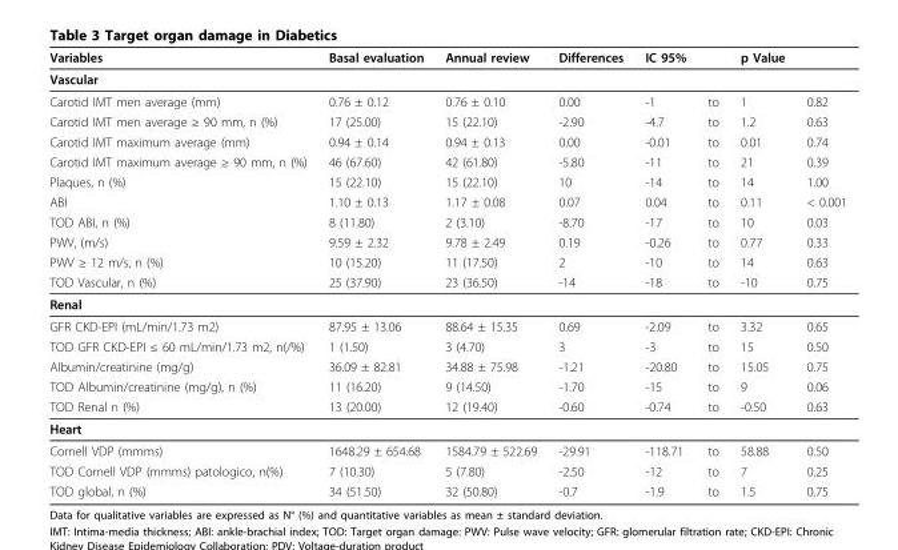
<table><thead><tr><td>Variables</td><td>Basal evaluation</td><td>Annual review</td><td>Differences</td><td>IC 95%</td><td></td><td>p Value</td><td></td></tr></thead><tbody><tr><td colspan="8">Vascular</td></tr><tr><td>Carotid IMT men average (mm)</td><td>0.76 ± 0.12</td><td>0.76 ± 0.10</td><td>0.00</td><td>-1</td><td>to</td><td>1</td><td>0.82</td></tr><tr><td>Carotid IMT men average ≥ 90 mm, n (%)</td><td>17 (25.00)</td><td>15 (22.10)</td><td>-2.90</td><td>-4.7</td><td>to</td><td>1.2</td><td>0.63</td></tr><tr><td>Carotid IMT maximum average (mm)</td><td>0.94 ± 0.14</td><td>0.94 ± 0.13</td><td>0.00</td><td>-0.01</td><td>to</td><td>0.01</td><td>0.74</td></tr><tr><td>Carotid IMT maximum average ≥ 90 mm, n (%)</td><td>46 (67.60)</td><td>42 (61.80)</td><td>-5.80</td><td>-11</td><td>to</td><td>21</td><td>0.39</td></tr><tr><td>Plaques, n (%)</td><td>15 (22.10)</td><td>15 (22.10)</td><td>10</td><td>-14</td><td>to</td><td>14</td><td>1.00</td></tr><tr><td>ABI</td><td>1.10 ± 0.13</td><td>1.17 ± 0.08</td><td>0.07</td><td>0.04</td><td>to</td><td>0.11</td><td>&lt; 0.001</td></tr><tr><td>TOD ABI, n (%)</td><td>8 (11.80)</td><td>2 (3.10)</td><td>-8.70</td><td>-17</td><td>to</td><td>10</td><td>0.03</td></tr><tr><td>PWV, (m/s)</td><td>9.59 ± 2.32</td><td>9.78 ± 2.49</td><td>0.19</td><td>-0.26</td><td>to</td><td>0.77</td><td>0.33</td></tr><tr><td>PWV ≥ 12 m/s, n (%)</td><td>10 (15.20)</td><td>11 (17.50)</td><td>2</td><td>-10</td><td>to</td><td>14</td><td>0.63</td></tr><tr><td>TOD Vascular, n (%)</td><td>25 (37.90)</td><td>23 (36.50)</td><td>-14</td><td>-18</td><td>to</td><td>-10</td><td>0.75</td></tr><tr><td colspan="8">Renal</td></tr><tr><td>GFR CKD-EPI (mL/min/1.73 m2)</td><td>87.95 ± 13.06</td><td>88.64 ± 15.35</td><td>0.69</td><td>-2.09</td><td>to</td><td>3.32</td><td>0.65</td></tr><tr><td>TOD GFR CKD-EPI ≤ 60 mL/min/1.73 m2, n(/%)</td><td>1 (1.50)</td><td>3 (4.70)</td><td>3</td><td>-3</td><td>to</td><td>15</td><td>0.50</td></tr><tr><td>Albumin/creatinine (mg/g)</td><td>36.09 ± 82.81</td><td>34.88 ± 75.98</td><td>-1.21</td><td>-20.80</td><td>to</td><td>15.05</td><td>0.75</td></tr><tr><td>TOD Albumin/creatinine (mg/g), n (%)</td><td>11 (16.20)</td><td>9 (14.50)</td><td>-1.70</td><td>-15</td><td>to</td><td>9</td><td>0.06</td></tr><tr><td>TOD Renal n (%)</td><td>13 (20.00)</td><td>12 (19.40)</td><td>-0.60</td><td>-0.74</td><td>to</td><td>-0.50</td><td>0.63</td></tr><tr><td colspan="8">Heart</td></tr><tr><td>Cornell VDP (mmms)</td><td>1648.29 ± 654.68</td><td>1584.79 ± 522.69</td><td>-29.91</td><td>-118.71</td><td>to</td><td>58.88</td><td>0.50</td></tr><tr><td>TOD Cornell VDP (mmms) patologico, n(%)</td><td>7 (10.30)</td><td>5 (7.80)</td><td>-2.50</td><td>-12</td><td>to</td><td>7</td><td>0.25</td></tr><tr><td>TOD global, n (%)</td><td>34 (51.50)</td><td>32 (50.80)</td><td>-0.7</td><td>-1.9</td><td>to</td><td>1.5</td><td>0.75</td></tr></tbody></table>